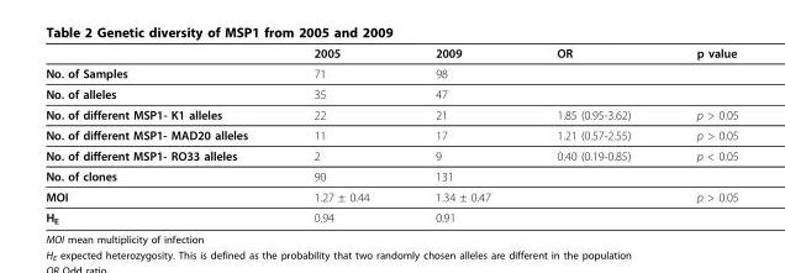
<table><thead><tr><td></td><td>2005</td><td>2009</td><td>OR</td><td>p value</td></tr></thead><tbody><tr><td>No. of Samples</td><td>71</td><td>98</td><td></td><td></td></tr><tr><td>No. of alleles</td><td>35</td><td>47</td><td></td><td></td></tr><tr><td>No. of different MSP1- K1 alleles</td><td>22</td><td>21</td><td>1.85 (0.95-3.62)</td><td>p &gt; 0.05</td></tr><tr><td>No. of different MSP1- MAD20 alleles</td><td>11</td><td>17</td><td>1.21 (0.57-2.55)</td><td>p &gt; 0.05</td></tr><tr><td>No. of different MSP1- RO33 alleles</td><td>2</td><td>9</td><td>0.40 (0.19-0.85)</td><td>p &lt; 0.05</td></tr><tr><td>No. of clones</td><td>90</td><td>131</td><td></td><td></td></tr><tr><td>MOI</td><td>1.27 ± 0.44</td><td>1.34 ± 0.47</td><td></td><td>p &gt; 0.05</td></tr><tr><td>H<sub>E</sub></td><td>0.94</td><td>0.91</td><td></td><td></td></tr></tbody></table>